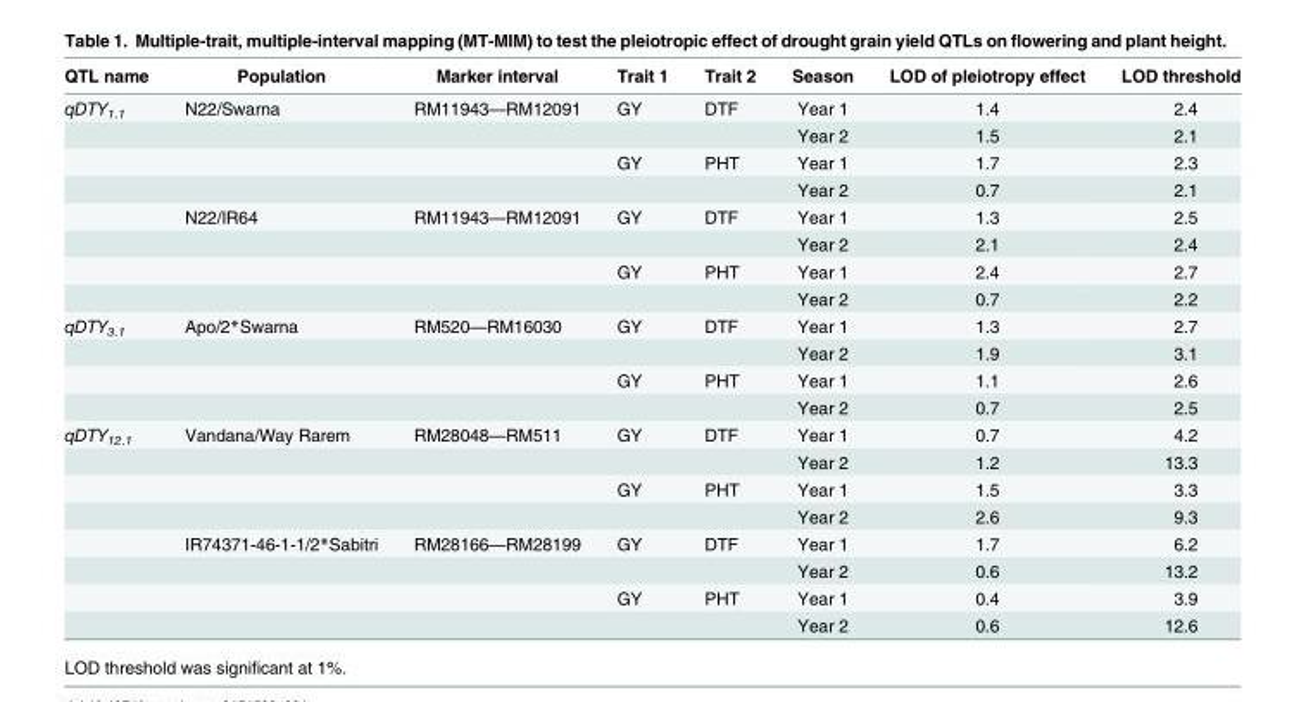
<table><thead><tr><td>QTL name</td><td>Population</td><td>Marker interval</td><td>Trait 1</td><td>Trait 2</td><td>Season</td><td>LOD of pleiotropy effect</td><td>LOD threshold</td></tr></thead><tbody><tr><td rowspan="8">qDTY<sub>1.1</sub></td><td>N22/Swarna</td><td>RM11943—RM12091</td><td>GY</td><td>DTF</td><td>Year 1</td><td>1.4</td><td>2.4</td></tr><tr><td></td><td></td><td></td><td></td><td>Year 2</td><td>1.5</td><td>2.1</td></tr><tr><td></td><td></td><td>GY</td><td>PHT</td><td>Year 1</td><td>1.7</td><td>2.3</td></tr><tr><td></td><td></td><td></td><td></td><td>Year 2</td><td>0.7</td><td>2.1</td></tr><tr><td>N22/IR64</td><td>RM11943—RM12091</td><td>GY</td><td>DTF</td><td>Year 1</td><td>1.3</td><td>2.5</td></tr><tr><td></td><td></td><td></td><td></td><td>Year 2</td><td>2.1</td><td>2.4</td></tr><tr><td></td><td></td><td>GY</td><td>PHT</td><td>Year 1</td><td>2.4</td><td>2.7</td></tr><tr><td></td><td></td><td></td><td></td><td>Year 2</td><td>0.7</td><td>2.2</td></tr><tr><td rowspan="4">qDTY<sub>3.1</sub></td><td>Apo/2*Swarna</td><td>RM520—RM16030</td><td>GY</td><td>DTF</td><td>Year 1</td><td>1.3</td><td>2.7</td></tr><tr><td></td><td></td><td></td><td></td><td>Year 2</td><td>1.9</td><td>3.1</td></tr><tr><td></td><td></td><td>GY</td><td>PHT</td><td>Year 1</td><td>1.1</td><td>2.6</td></tr><tr><td></td><td></td><td></td><td></td><td>Year 2</td><td>0.7</td><td>2.5</td></tr><tr><td rowspan="8">qDTY<sub>12.1</sub></td><td>Vandana/Way Rarem</td><td>RM28048—RM511</td><td>GY</td><td>DTF</td><td>Year 1</td><td>0.7</td><td>4.2</td></tr><tr><td></td><td></td><td></td><td></td><td>Year 2</td><td>1.2</td><td>13.3</td></tr><tr><td></td><td></td><td>GY</td><td>PHT</td><td>Year 1</td><td>1.5</td><td>3.3</td></tr><tr><td></td><td></td><td></td><td></td><td>Year 2</td><td>2.6</td><td>9.3</td></tr><tr><td>IR74371-46-1-1/2*Sabitri</td><td>RM28166—RM28199</td><td>GY</td><td>DTF</td><td>Year 1</td><td>1.7</td><td>6.2</td></tr><tr><td></td><td></td><td></td><td></td><td>Year 2</td><td>0.6</td><td>13.2</td></tr><tr><td></td><td></td><td>GY</td><td>PHT</td><td>Year 1</td><td>0.4</td><td>3.9</td></tr><tr><td></td><td></td><td></td><td></td><td>Year 2</td><td>0.6</td><td>12.6</td></tr></tbody></table>